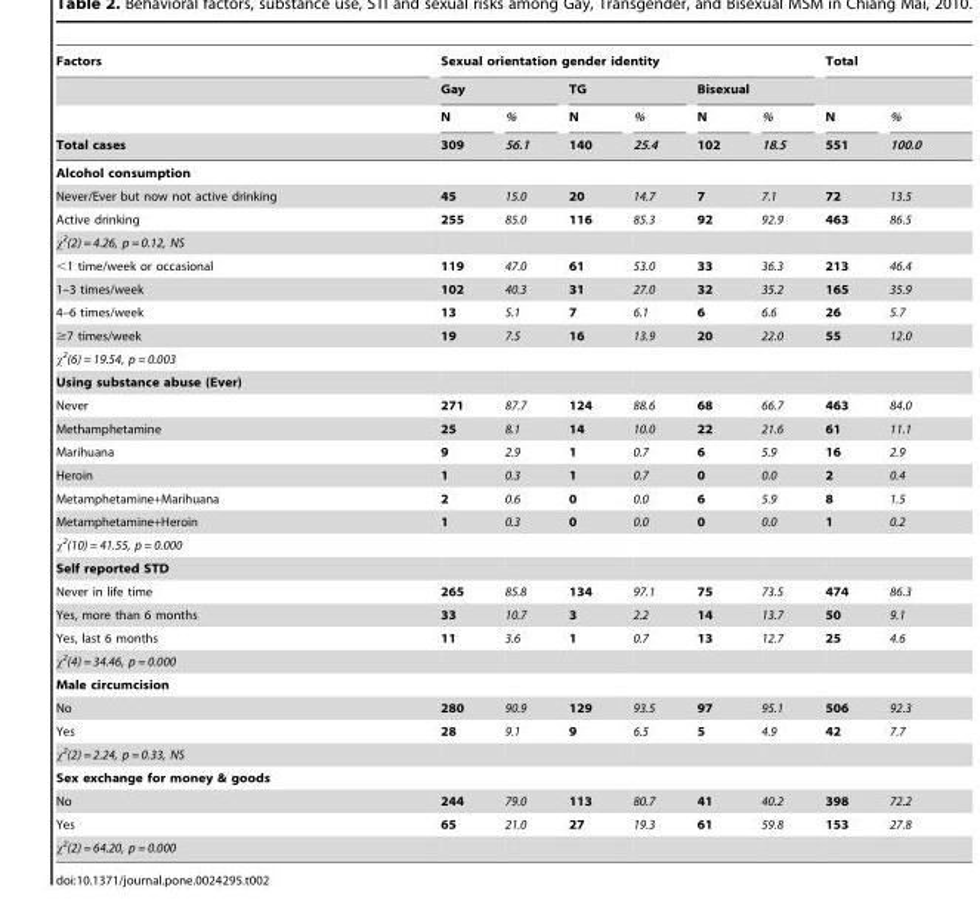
<table><thead><tr><td rowspan="4">Factors Total cases</td><td colspan="6">Sexual orientation gender identity</td><td colspan="2">Total</td></tr><tr><td colspan="2">Gay</td><td colspan="2">TG</td><td colspan="2">Bisexual</td><td rowspan="3">N 551</td><td rowspan="3">% 100.0</td></tr><tr><td rowspan="2">N 309</td><td rowspan="2">% 56.1</td><td rowspan="2">N 140</td><td rowspan="2">% 25.4</td><td rowspan="2">N 102</td><td rowspan="2">% 18.5</td></tr><tr></tr></thead><tbody><tr><td colspan="9">Alcohol consumption</td></tr><tr><td>Never/Ever but now not active drinking</td><td>45</td><td>15.0</td><td>20</td><td>14.7</td><td>7</td><td>7.1</td><td>72</td><td>13.5</td></tr><tr><td>Active drinking</td><td>255</td><td>85.0</td><td>116</td><td>85.3</td><td>92</td><td>92.9</td><td>463</td><td>86.5</td></tr><tr><td colspan="9">χ<sup>2</sup>(2) = 4.26, p = 0.12, NS</td></tr><tr><td>&lt;1 time/week or occasional</td><td>119</td><td>47.0</td><td>61</td><td>53.0</td><td>33</td><td>36.3</td><td>213</td><td>46.4</td></tr><tr><td>1–3 times/week</td><td>102</td><td>40.3</td><td>31</td><td>27.0</td><td>32</td><td>35.2</td><td>165</td><td>35.9</td></tr><tr><td>4–6 times/week</td><td>13</td><td>5.1</td><td>7</td><td>6.1</td><td>6</td><td>6.6</td><td>26</td><td>5.7</td></tr><tr><td>≥7 times/week</td><td>19</td><td>7.5</td><td>16</td><td>13.9</td><td>20</td><td>22.0</td><td>55</td><td>12.0</td></tr><tr><td colspan="9">χ<sup>2</sup>(6) = 19.54, p = 0.003</td></tr><tr><td colspan="9">Using substance abuse (Ever)</td></tr><tr><td>Never</td><td>271</td><td>87.7</td><td>124</td><td>88.6</td><td>68</td><td>66.7</td><td>463</td><td>84.0</td></tr><tr><td>Methamphetamine</td><td>25</td><td>8.1</td><td>14</td><td>10.0</td><td>22</td><td>21.6</td><td>61</td><td>11.1</td></tr><tr><td>Marihuana</td><td>9</td><td>2.9</td><td>1</td><td>0.7</td><td>6</td><td>5.9</td><td>16</td><td>2.9</td></tr><tr><td>Heroin</td><td>1</td><td>0.3</td><td>1</td><td>0.7</td><td>0</td><td>0.0</td><td>2</td><td>0.4</td></tr><tr><td>Metamphetamine+Marihuana</td><td>2</td><td>0.6</td><td>0</td><td>0.0</td><td>6</td><td>5.9</td><td>8</td><td>1.5</td></tr><tr><td>Metamphetamine+Heroin</td><td>1</td><td>0.3</td><td>0</td><td>0.0</td><td>0</td><td>0.0</td><td>1</td><td>0.2</td></tr><tr><td colspan="9">χ<sup>2</sup>(10) = 41.55, p = 0.000</td></tr><tr><td colspan="9">Self reported STD</td></tr><tr><td>Never in life time</td><td>265</td><td>85.8</td><td>134</td><td>97.1</td><td>75</td><td>73.5</td><td>474</td><td>86.3</td></tr><tr><td>Yes, more than 6 months</td><td>33</td><td>10.7</td><td>3</td><td>2.2</td><td>14</td><td>13.7</td><td>50</td><td>9.1</td></tr><tr><td>Yes, last 6 months</td><td>11</td><td>3.6</td><td>1</td><td>0.7</td><td>13</td><td>12.7</td><td>25</td><td>4.6</td></tr><tr><td colspan="9">χ<sup>2</sup>(4) = 34.46, p = 0.000</td></tr><tr><td colspan="9">Male circumcision</td></tr><tr><td>No</td><td>280</td><td>90.9</td><td>129</td><td>93.5</td><td>97</td><td>95.1</td><td>506</td><td>92.3</td></tr><tr><td>Yes</td><td>28</td><td>9.1</td><td>9</td><td>6.5</td><td>5</td><td>4.9</td><td>42</td><td>7.7</td></tr><tr><td colspan="9">χ<sup>2</sup>(2) = 2.24, p = 0.33, NS</td></tr><tr><td colspan="9">Sex exchange for money &amp; goods</td></tr><tr><td>No</td><td>244</td><td>79.0</td><td>113</td><td>80.7</td><td>41</td><td>40.2</td><td>398</td><td>72.2</td></tr><tr><td>Yes</td><td>65</td><td>21.0</td><td>27</td><td>19.3</td><td>61</td><td>59.8</td><td>153</td><td>27.8</td></tr><tr><td>χ<sup>2</sup>(2) = 64.20, p = 0.000</td><td></td><td></td><td></td><td></td><td></td><td></td><td></td><td></td></tr></tbody></table>